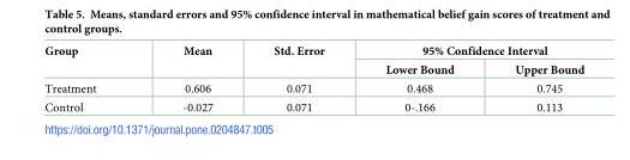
<table><thead><tr><td rowspan="2">Group</td><td rowspan="2">Mean</td><td rowspan="2">Std. Error</td><td colspan="2">95% Confidence Interval</td></tr><tr><td>Lower Bound</td><td>Upper Bound</td></tr></thead><tbody><tr><td>Treatment</td><td>0.606</td><td>0.071</td><td>0.468</td><td>0.745</td></tr><tr><td>Control</td><td>-0.027</td><td>0.071</td><td>0-.166</td><td>0.113</td></tr></tbody></table>